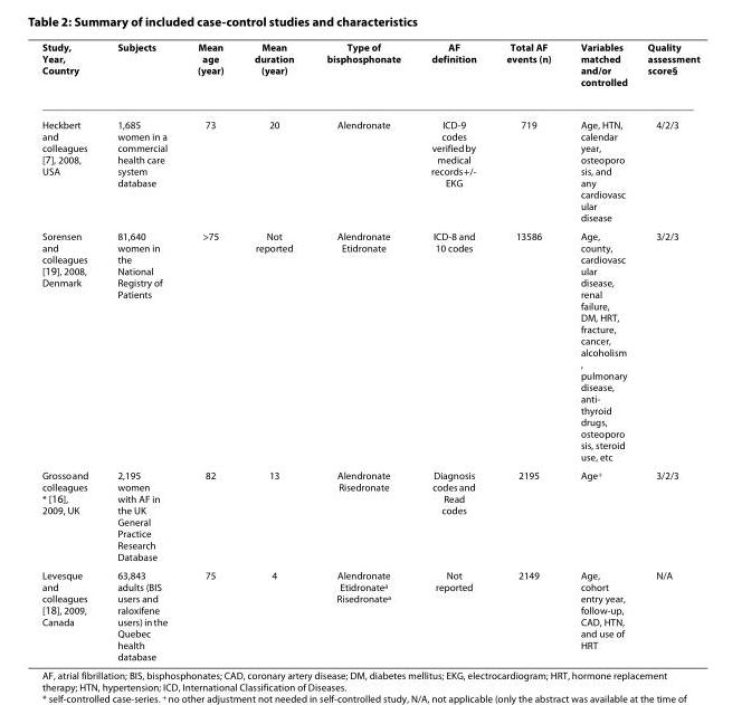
<table><thead><tr><td>Study, Year, Country</td><td>Subjects</td><td>Mean age (year)</td><td>Mean duration (year)</td><td>Type of bisphosphonate</td><td>AF definition</td><td>Total AF events (n)</td><td>Variables matched and/or controlled</td><td>Quality assessment score<sup>§</sup></td></tr></thead><tbody><tr><td>Heckbert and colleagues [7], 2008, USA</td><td>1,685 women in a commercial health care system database</td><td>73</td><td>20</td><td>Alendronate</td><td>ICD-9 codes verified by medical records +/- EKG</td><td>719</td><td>Age, HTN, calendar year, osteoporo sis, and any cardiovasc ular disease</td><td>4/2/3</td></tr><tr><td>Sorensen and colleagues [19], 2008, Denmark</td><td>81,640 women in the National Registry of Patients</td><td>&gt;75</td><td>Not reported</td><td>Alendronate Etidronate</td><td>ICD-8 and 10 codes</td><td>13586</td><td>Age, county, cardiovasc ular disease, renal failure, DM, HRT, fracture, cancer, alcoholism , pulmonary disease, anti- thyroid drugs, osteoporo sis, steroid use, etc</td><td>3/2/3</td></tr><tr><td>Grosso and colleagues * [16], 2009, UK</td><td>2,195 women with AF in the UK General Practice Research Database</td><td>82</td><td>13</td><td>Alendronate Risedronate</td><td>Diagnosis codes and Read codes</td><td>2195</td><td>Age<sup>+</sup></td><td>3/2/3</td></tr><tr><td>Levesque and colleagues [18], 2009, Canada</td><td>63,843 adults (BIS users and raloxifene users) in the Quebec health database</td><td>75</td><td>4</td><td>Alendronate Etidronate<sup>a</sup> Risedronate<sup>a</sup></td><td>Not reported</td><td>2149</td><td>Age, cohort entry year, follow-up, CAD, HTN, and use of HRT</td><td>N/A</td></tr></tbody></table>